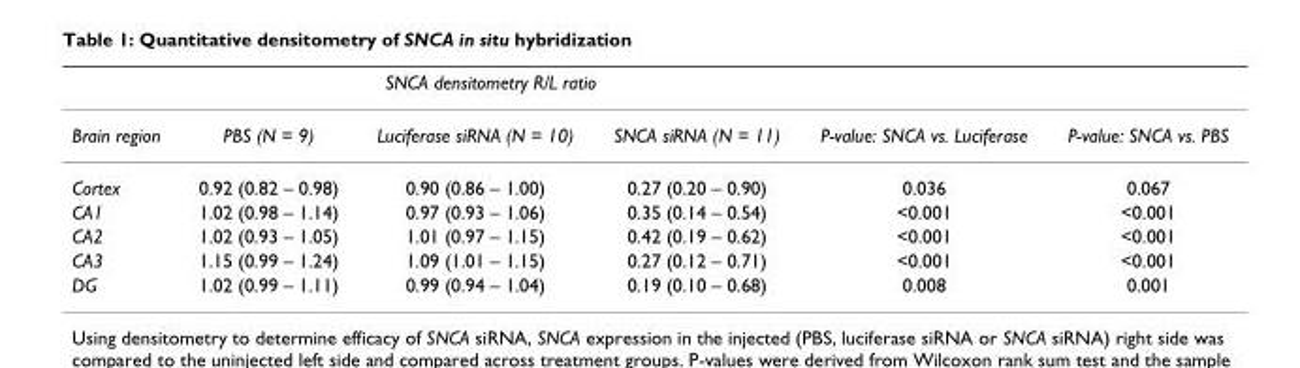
<table><thead><tr><td rowspan="2">Brain region</td><td colspan="3">SNCA densitometry R/L ratio</td><td rowspan="2">P-value: SNCA vs. Luciferase</td><td rowspan="2">P-value: SNCA vs. PBS</td></tr><tr><td>PBS (N = 9)</td><td>Luciferase siRNA (N = 10)</td><td>SNCA siRNA (N = 11)</td></tr></thead><tbody><tr><td>Cortex</td><td>0.92 (0.82 – 0.98)</td><td>0.90 (0.86 – 1.00)</td><td>0.27 (0.20 – 0.90)</td><td>0.036</td><td>0.067</td></tr><tr><td>CA1</td><td>1.02 (0.98 – 1.14)</td><td>0.97 (0.93 – 1.06)</td><td>0.35 (0.14 – 0.54)</td><td>&lt;0.001</td><td>&lt;0.001</td></tr><tr><td>CA2</td><td>1.02 (0.93 – 1.05)</td><td>1.01 (0.97 – 1.15)</td><td>0.42 (0.19 – 0.62)</td><td>&lt;0.001</td><td>&lt;0.001</td></tr><tr><td>CA3</td><td>1.15 (0.99 – 1.24)</td><td>1.09 (1.01 – 1.15)</td><td>0.27 (0.12 – 0.71)</td><td>&lt;0.001</td><td>&lt;0.001</td></tr><tr><td>DG</td><td>1.02 (0.99 – 1.11)</td><td>0.99 (0.94 – 1.04)</td><td>0.19 (0.10 – 0.68)</td><td>0.008</td><td>0.001</td></tr></tbody></table>